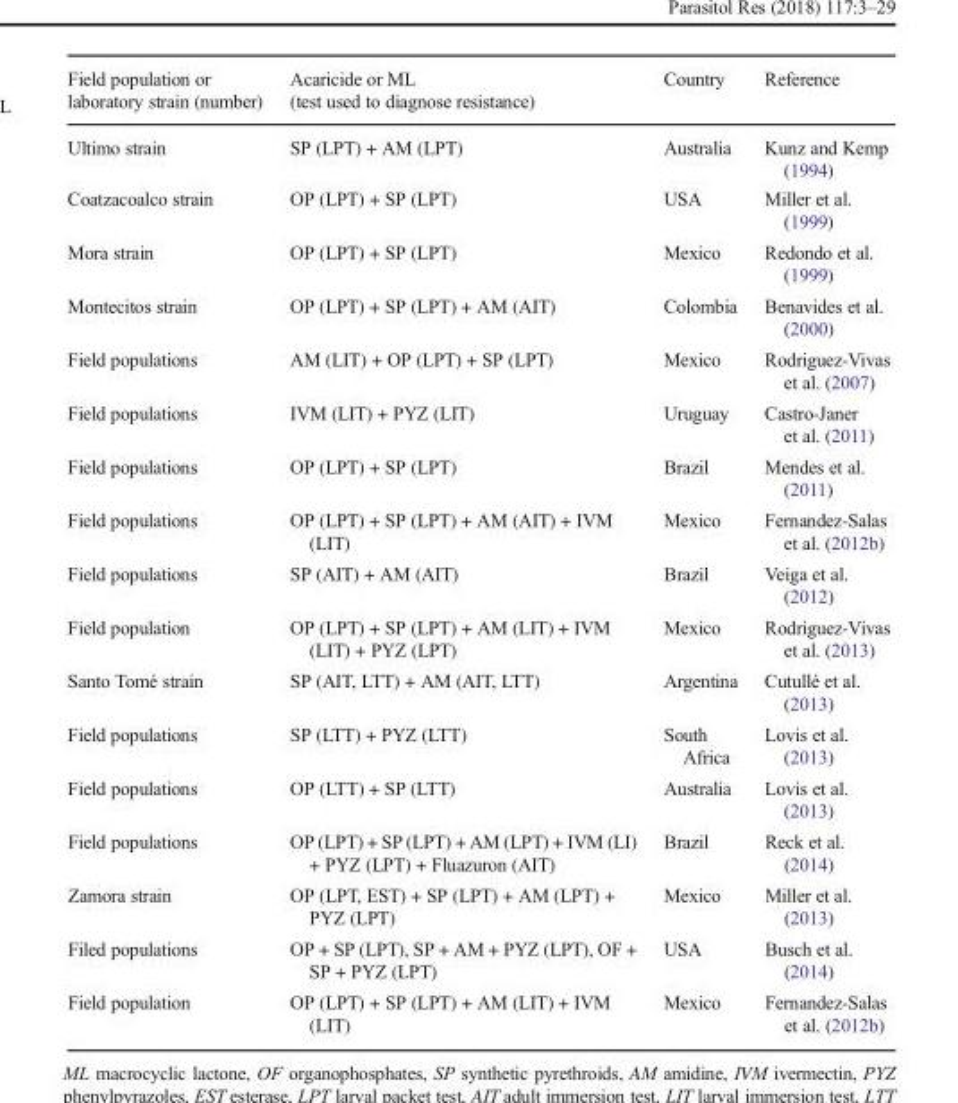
<table><thead><tr><td>Field population or laboratory strain (number)</td><td>Acaricide or ML (test used to diagnose resistance)</td><td>Country</td><td>Reference</td></tr></thead><tbody><tr><td>Ultimo strain</td><td>SP (LPT) + AM (LPT)</td><td>Australia</td><td>Kunz and Kemp (1994)</td></tr><tr><td>Coatzacoalco strain</td><td>OP (LPT) + SP (LPT)</td><td>USA</td><td>Miller et al. (1999)</td></tr><tr><td>Mora strain</td><td>OP (LPT) + SP (LPT)</td><td>Mexico</td><td>Redondo et al. (1999)</td></tr><tr><td>Montecitos strain</td><td>OP (LPT) + SP (LPT) + AM (AIT)</td><td>Colombia</td><td>Benavides et al. (2000)</td></tr><tr><td>Field populations</td><td>AM (LIT) + OP (LPT) + SP (LPT)</td><td>Mexico</td><td>Rodriguez-Vivas et al. (2007)</td></tr><tr><td>Field populations</td><td>IVM (LIT) + PYZ (LIT)</td><td>Uruguay</td><td>Castro-Janer et al. (2011)</td></tr><tr><td>Field populations</td><td>OP (LPT) + SP (LPT)</td><td>Brazil</td><td>Mendes et al. (2011)</td></tr><tr><td>Field populations</td><td>OP (LPT) + SP (LPT) + AM (AIT) + IVM (LIT)</td><td>Mexico</td><td>Fernandez-Salas et al. (2012b)</td></tr><tr><td>Field populations</td><td>SP (AIT) + AM (AIT)</td><td>Brazil</td><td>Veiga et al. (2012)</td></tr><tr><td>Field population</td><td>OP (LPT) + SP (LPT) + AM (LIT) + IVM (LIT) + PYZ (LPT)</td><td>Mexico</td><td>Rodriguez-Vivas et al. (2013)</td></tr><tr><td>Santo Tomé strain</td><td>SP (AIT, LTT) + AM (AIT, LTT)</td><td>Argentina</td><td>Cutullé et al. (2013)</td></tr><tr><td>Field populations</td><td>SP (LTT) + PYZ (LTT)</td><td>South Africa</td><td>Lovis et al. (2013)</td></tr><tr><td>Field populations</td><td>OP (LTT) + SP (LTT)</td><td>Australia</td><td>Lovis et al. (2013)</td></tr><tr><td>Field populations</td><td>OP (LPT) + SP (LPT) + AM (LPT) + IVM (LI) + PYZ (LPT) + Fluazuron (AIT)</td><td>Brazil</td><td>Reck et al. (2014)</td></tr><tr><td>Zamora strain</td><td>OP (LPT, EST) + SP (LPT) + AM (LPT) + PYZ (LPT)</td><td>Mexico</td><td>Miller et al. (2013)</td></tr><tr><td>Filed populations</td><td>OP + SP (LPT), SP + AM + PYZ (LPT), OF + SP + PYZ (LPT)</td><td>USA</td><td>Busch et al. (2014)</td></tr><tr><td>Field population</td><td>OP (LPT) + SP (LPT) + AM (LIT) + IVM (LIT)</td><td>Mexico</td><td>Fernandez-Salas et al. (2012b)</td></tr></tbody></table>